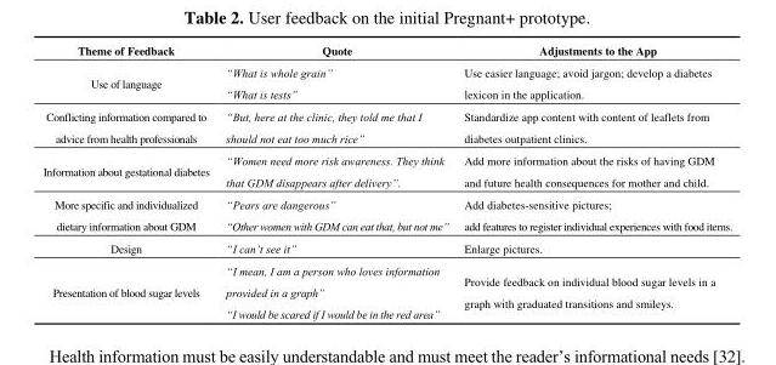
<table><thead><tr><td>Theme of Feedback</td><td>Quote</td><td>Adjustments to the App</td></tr></thead><tbody><tr><td rowspan="2">Use of language</td><td>“What is whole grain”</td><td rowspan="2">Use easier language; avoid jargon; develop a diabetes lexicon in the application.</td></tr><tr><td>“What is tests”</td></tr><tr><td>Conflicting information compared to advice from health professionals</td><td>“But, here at the clinic, they told me that I should not eat too much rice”</td><td>Standardize app content with content of leaflets from diabetes outpatient clinics.</td></tr><tr><td>Information about gestational diabetes</td><td>“Women need more risk awareness. They think that GDM disappears after delivery”.</td><td>Add more information about the risks of having GDM and future health consequences for mother and child.</td></tr><tr><td rowspan="2">More specific and individualized dietary information about GDM</td><td>“Pears are dangerous”</td><td>Add diabetes-sensitive pictures;</td></tr><tr><td>“Other women with GDM can eat that, but not me”</td><td>add features to register individual experiences with food items.</td></tr><tr><td>Design</td><td>“I can’t see it”</td><td>Enlarge pictures.</td></tr><tr><td rowspan="2">Presentation of blood sugar levels</td><td>“I mean, I am a person who loves information provided in a graph”</td><td rowspan="2">Provide feedback on individual blood sugar levels in a graph with graduated transitions and smileys.</td></tr><tr><td>“I would be scared if I would be in the red area”</td></tr></tbody></table>